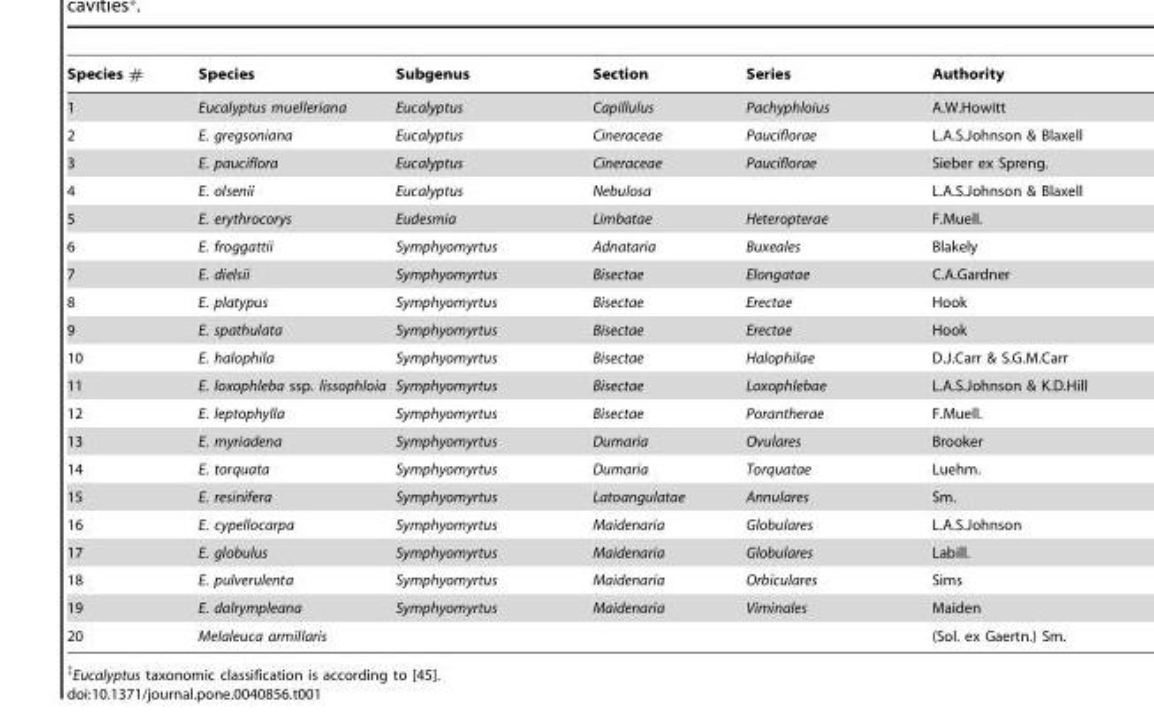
<table><thead><tr><td>Species #</td><td>Species</td><td>Subgenus</td><td>Section</td><td>Series</td><td>Authority</td></tr></thead><tbody><tr><td>1</td><td>Eucalyptus muelleriana</td><td>Eucalyptus</td><td>Capillulus</td><td>Pachyphloius</td><td>A.W.Howitt</td></tr><tr><td>2</td><td>E. gregsoniana</td><td>Eucalyptus</td><td>Cineraceae</td><td>Pauciflorae</td><td>L.A.S.Johnson &amp; Blaxell</td></tr><tr><td>3</td><td>E. pauciflora</td><td>Eucalyptus</td><td>Cineraceae</td><td>Pauciflorae</td><td>Sieber ex Spreng.</td></tr><tr><td>4</td><td>E. olsenii</td><td>Eucalyptus</td><td>Nebulosa</td><td></td><td>L.A.S.Johnson &amp; Blaxell</td></tr><tr><td>5</td><td>E. erythrocorys</td><td>Eudesmia</td><td>Limbatae</td><td>Heteropterae</td><td>F.Muell.</td></tr><tr><td>6</td><td>E. froggattii</td><td>Symphyomyrtus</td><td>Adnataria</td><td>Buxeales</td><td>Blakely</td></tr><tr><td>7</td><td>E. dielsii</td><td>Symphyomyrtus</td><td>Bisectae</td><td>Elongatae</td><td>C.A.Gardner</td></tr><tr><td>8</td><td>E. platypus</td><td>Symphyomyrtus</td><td>Bisectae</td><td>Erectae</td><td>Hook</td></tr><tr><td>9</td><td>E. spathulata</td><td>Symphyomyrtus</td><td>Bisectae</td><td>Erectae</td><td>Hook</td></tr><tr><td>10</td><td>E. halophila</td><td>Symphyomyrtus</td><td>Bisectae</td><td>Halophilae</td><td>D.J.Carr &amp; S.G.M.Carr</td></tr><tr><td>11</td><td>E. loxophleba ssp. lissophloia</td><td>Symphyomyrtus</td><td>Bisectae</td><td>Loxophlebae</td><td>L.A.S.Johnson &amp; K.D.Hill</td></tr><tr><td>12</td><td>E. leptophylla</td><td>Symphyomyrtus</td><td>Bisectae</td><td>Porantherae</td><td>F.Muell.</td></tr><tr><td>13</td><td>E. myriadena</td><td>Symphyomyrtus</td><td>Dumaria</td><td>Ovulares</td><td>Brooker</td></tr><tr><td>14</td><td>E. torquata</td><td>Symphyomyrtus</td><td>Dumaria</td><td>Torquatae</td><td>Luehm.</td></tr><tr><td>15</td><td>E. resinifera</td><td>Symphyomyrtus</td><td>Latoangulatae</td><td>Annulares</td><td>Sm.</td></tr><tr><td>16</td><td>E. cypellocarpa</td><td>Symphyomyrtus</td><td>Maidenaria</td><td>Globulares</td><td>L.A.S.Johnson</td></tr><tr><td>17</td><td>E. globulus</td><td>Symphyomyrtus</td><td>Maidenaria</td><td>Globulares</td><td>Labill.</td></tr><tr><td>18</td><td>E. pulverulenta</td><td>Symphyomyrtus</td><td>Maidenaria</td><td>Orbiculares</td><td>Sims</td></tr><tr><td>19</td><td>E. dalrympleana</td><td>Symphyomyrtus</td><td>Maidenaria</td><td>Viminales</td><td>Maiden</td></tr><tr><td>20</td><td>Melaleuca armillaris</td><td></td><td></td><td></td><td>(Sol. ex Gaertn.) Sm.</td></tr></tbody></table>